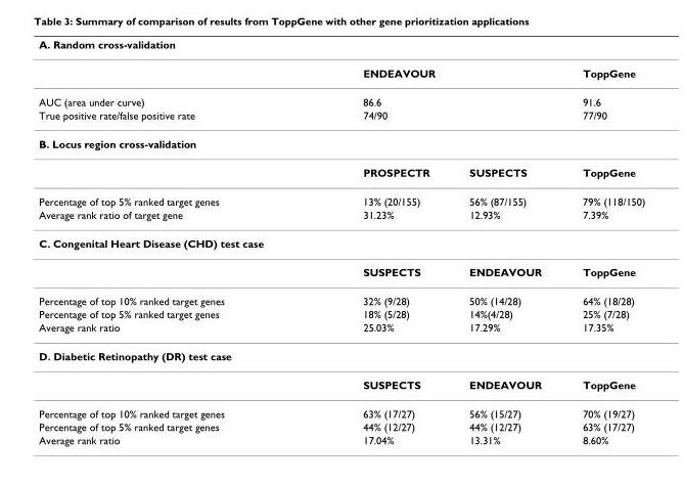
<table><thead><tr><td colspan="4">A. Random cross-validation</td></tr><tr><td rowspan="2">AUC (area under curve)</td><td colspan="2">ENDEAVOUR</td><td rowspan="2">ToppGene 91.6</td></tr><tr><td>86.6</td><td></td></tr></thead><tbody><tr><td>True positive rate/false positive rate</td><td>74/90</td><td></td><td>77/90</td></tr><tr><td colspan="4">B. Locus region cross-validation</td></tr><tr><td></td><td>PROSPECTR</td><td>SUSPECTS</td><td>ToppGene</td></tr><tr><td>Percentage of top 5% ranked target genes</td><td>13% (20/155)</td><td>56% (87/155)</td><td>79% (118/150)</td></tr><tr><td>Average rank ratio of target gene</td><td>31.23%</td><td>12.93%</td><td>7.39%</td></tr><tr><td colspan="4">C. Congenital Heart Disease (CHD) test case</td></tr><tr><td></td><td>SUSPECTS</td><td>ENDEAVOUR</td><td>ToppGene</td></tr><tr><td>Percentage of top 10% ranked target genes</td><td>32% (9/28)</td><td>50% (14/28)</td><td>64% (18/28)</td></tr><tr><td>Percentage of top 5% ranked target genes</td><td>18% (5/28)</td><td>14%(4/28)</td><td>25% (7/28)</td></tr><tr><td>Average rank ratio</td><td>25.03%</td><td>17.29%</td><td>17.35%</td></tr><tr><td colspan="4">D. Diabetic Retinopathy (DR) test case</td></tr><tr><td></td><td>SUSPECTS</td><td>ENDEAVOUR</td><td>ToppGene</td></tr><tr><td>Percentage of top 10% ranked target genes</td><td>63% (17/27)</td><td>56% (15/27)</td><td>70% (19/27)</td></tr><tr><td>Percentage of top 5% ranked target genes</td><td>44% (12/27)</td><td>44% (12/27)</td><td>63% (17/27)</td></tr><tr><td>Average rank ratio</td><td>17.04%</td><td>13.31%</td><td>8.60%</td></tr></tbody></table>